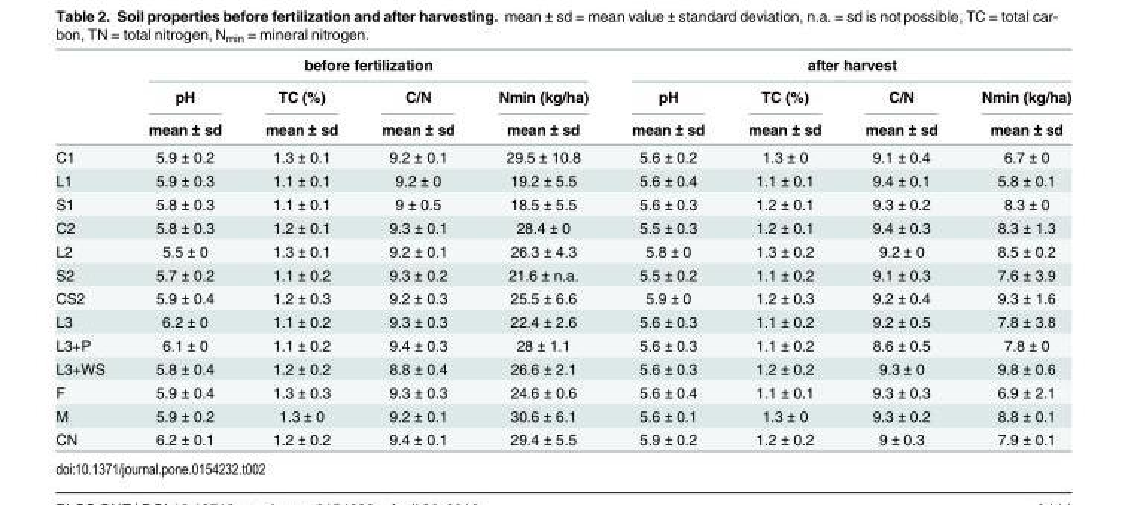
<table><thead><tr><td rowspan="3"></td><td colspan="4">before fertilization</td><td colspan="4">after harvest</td></tr><tr><td rowspan="2">pH mean ± sd</td><td rowspan="2">TC (%) mean ± sd</td><td rowspan="2">C/N mean ± sd</td><td rowspan="2">Nmin (kg/ha) mean ± sd</td><td rowspan="2">pH mean ± sd</td><td rowspan="2">TC (%) mean ± sd</td><td rowspan="2">C/N mean ± sd</td><td rowspan="2">Nmin (kg/ha) mean ± sd</td></tr><tr></tr></thead><tbody><tr><td>C1</td><td>5.9 ± 0.2</td><td>1.3 ± 0.1</td><td>9.2 ± 0.1</td><td>29.5 ± 10.8</td><td>5.6 ± 0.2</td><td>1.3 ± 0</td><td>9.1 ± 0.4</td><td>6.7 ± 0</td></tr><tr><td>L1</td><td>5.9 ± 0.3</td><td>1.1 ± 0.1</td><td>9.2 ± 0</td><td>19.2 ± 5.5</td><td>5.6 ± 0.4</td><td>1.1 ± 0.1</td><td>9.4 ± 0.1</td><td>5.8 ± 0.1</td></tr><tr><td>S1</td><td>5.8 ± 0.3</td><td>1.1 ± 0.1</td><td>9 ± 0.5</td><td>18.5 ± 5.5</td><td>5.6 ± 0.3</td><td>1.2 ± 0.1</td><td>9.3 ± 0.2</td><td>8.3 ± 0</td></tr><tr><td>C2</td><td>5.8 ± 0.3</td><td>1.2 ± 0.1</td><td>9.3 ± 0.1</td><td>28.4 ± 0</td><td>5.5 ± 0.3</td><td>1.2 ± 0.1</td><td>9.4 ± 0.3</td><td>8.3 ± 1.3</td></tr><tr><td>L2</td><td>5.5 ± 0</td><td>1.3 ± 0.1</td><td>9.2 ± 0.1</td><td>26.3 ± 4.3</td><td>5.8 ± 0</td><td>1.3 ± 0.2</td><td>9.2 ± 0</td><td>8.5 ± 0.2</td></tr><tr><td>S2</td><td>5.7 ± 0.2</td><td>1.1 ± 0.2</td><td>9.3 ± 0.2</td><td>21.6 ± n.a.</td><td>5.5 ± 0.2</td><td>1.1 ± 0.2</td><td>9.1 ± 0.3</td><td>7.6 ± 3.9</td></tr><tr><td>CS2</td><td>5.9 ± 0.4</td><td>1.2 ± 0.3</td><td>9.2 ± 0.3</td><td>25.5 ± 6.6</td><td>5.9 ± 0</td><td>1.2 ± 0.3</td><td>9.2 ± 0.4</td><td>9.3 ± 1.6</td></tr><tr><td>L3</td><td>6.2 ± 0</td><td>1.1 ± 0.2</td><td>9.3 ± 0.3</td><td>22.4 ± 2.6</td><td>5.6 ± 0.3</td><td>1.1 ± 0.2</td><td>9.2 ± 0.5</td><td>7.8 ± 3.8</td></tr><tr><td>L3+P</td><td>6.1 ± 0</td><td>1.1 ± 0.2</td><td>9.4 ± 0.3</td><td>28 ± 1.1</td><td>5.6 ± 0.3</td><td>1.1 ± 0.2</td><td>8.6 ± 0.5</td><td>7.8 ± 0</td></tr><tr><td>L3+WS</td><td>5.8 ± 0.4</td><td>1.2 ± 0.2</td><td>8.8 ± 0.4</td><td>26.6 ± 2.1</td><td>5.6 ± 0.3</td><td>1.2 ± 0.2</td><td>9.3 ± 0</td><td>9.8 ± 0.6</td></tr><tr><td>F</td><td>5.9 ± 0.4</td><td>1.3 ± 0.3</td><td>9.3 ± 0.3</td><td>24.6 ± 0.6</td><td>5.6 ± 0.4</td><td>1.1 ± 0.1</td><td>9.3 ± 0.3</td><td>6.9 ± 2.1</td></tr><tr><td>M</td><td>5.9 ± 0.2</td><td>1.3 ± 0</td><td>9.2 ± 0.1</td><td>30.6 ± 6.1</td><td>5.6 ± 0.1</td><td>1.3 ± 0</td><td>9.3 ± 0.2</td><td>8.8 ± 0.1</td></tr><tr><td>CN</td><td>6.2 ± 0.1</td><td>1.2 ± 0.2</td><td>9.4 ± 0.1</td><td>29.4 ± 5.5</td><td>5.9 ± 0.2</td><td>1.2 ± 0.2</td><td>9 ± 0.3</td><td>7.9 ± 0.1</td></tr></tbody></table>